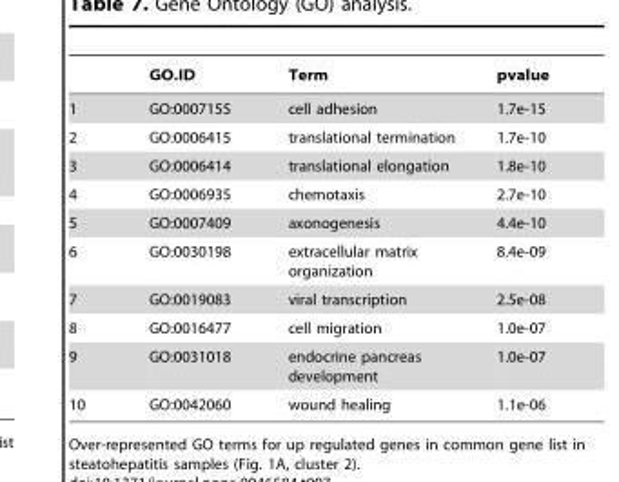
<table><thead><tr><td></td><td>GO.ID</td><td>Term</td><td>pvalue</td></tr></thead><tbody><tr><td>1</td><td>GO:0007155</td><td>cell adhesion</td><td>1.7e-15</td></tr><tr><td>2</td><td>GO:0006415</td><td>translational termination</td><td>1.7e-10</td></tr><tr><td>3</td><td>GO:0006414</td><td>translational elongation</td><td>1.8e-10</td></tr><tr><td>4</td><td>GO:0006935</td><td>chemotaxis</td><td>2.7e-10</td></tr><tr><td>5</td><td>GO:0007409</td><td>axonogenesis</td><td>4.4e-10</td></tr><tr><td>6</td><td>GO:0030198</td><td>extracellular matrix organization</td><td>8.4e-09</td></tr><tr><td>7</td><td>GO:0019083</td><td>viral transcription</td><td>2.5e-08</td></tr><tr><td>8</td><td>GO:0016477</td><td>cell migration</td><td>1.0e-07</td></tr><tr><td>9</td><td>GO:0031018</td><td>endocrine pancreas development</td><td>1.0e-07</td></tr><tr><td>10</td><td>GO:0042060</td><td>wound healing</td><td>1.1e-06</td></tr></tbody></table>